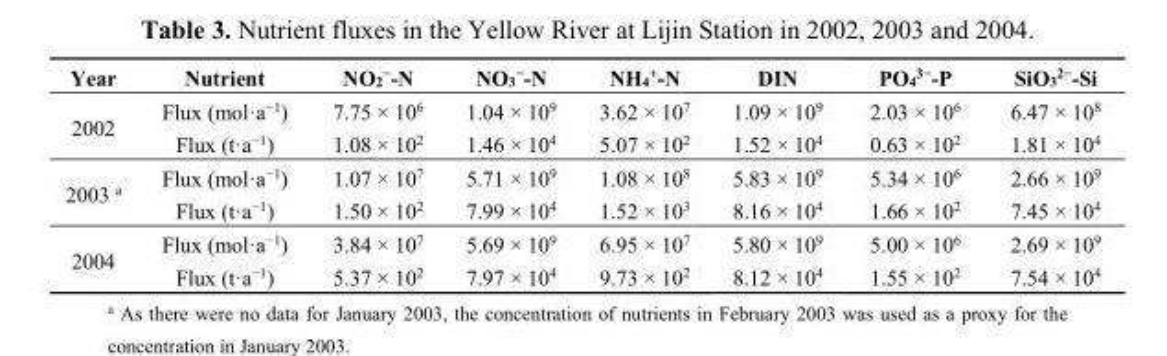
<table><thead><tr><td>Year</td><td>Nutrient</td><td>NO<sub>2</sub><sup>−</sup>-N</td><td>NO<sub>3</sub><sup>−</sup>-N</td><td>NH<sub>4</sub><sup>+</sup>-N</td><td>DIN</td><td>PO<sub>4</sub><sup>3−</sup>-P</td><td>SiO<sub>3</sub><sup>2−</sup>-Si</td></tr></thead><tbody><tr><td rowspan="2">2002</td><td>Flux (mol·a<sup>−1</sup>)</td><td>7.75 × 10<sup>6</sup></td><td>1.04 × 10<sup>9</sup></td><td>3.62 × 10<sup>7</sup></td><td>1.09 × 10<sup>9</sup></td><td>2.03 × 10<sup>6</sup></td><td>6.47 × 10<sup>8</sup></td></tr><tr><td>Flux (t·a<sup>−1</sup>)</td><td>1.08 × 10<sup>2</sup></td><td>1.46 × 10<sup>4</sup></td><td>5.07 × 10<sup>2</sup></td><td>1.52 × 10<sup>4</sup></td><td>0.63 × 10<sup>2</sup></td><td>1.81 × 10<sup>4</sup></td></tr><tr><td rowspan="2">2003 <sup>a</sup></td><td>Flux (mol·a<sup>−1</sup>)</td><td>1.07 × 10<sup>7</sup></td><td>5.71 × 10<sup>9</sup></td><td>1.08 × 10<sup>8</sup></td><td>5.83 × 10<sup>9</sup></td><td>5.34 × 10<sup>6</sup></td><td>2.66 × 10<sup>9</sup></td></tr><tr><td>Flux (t·a<sup>−1</sup>)</td><td>1.50 × 10<sup>2</sup></td><td>7.99 × 10<sup>4</sup></td><td>1.52 × 10<sup>3</sup></td><td>8.16 × 10<sup>4</sup></td><td>1.66 × 10<sup>2</sup></td><td>7.45 × 10<sup>4</sup></td></tr><tr><td rowspan="2">2004</td><td>Flux (mol·a<sup>−1</sup>)</td><td>3.84 × 10<sup>7</sup></td><td>5.69 × 10<sup>9</sup></td><td>6.95 × 10<sup>7</sup></td><td>5.80 × 10<sup>9</sup></td><td>5.00 × 10<sup>6</sup></td><td>2.69 × 10<sup>9</sup></td></tr><tr><td>Flux (t·a<sup>−1</sup>)</td><td>5.37 × 10<sup>2</sup></td><td>7.97 × 10<sup>4</sup></td><td>9.73 × 10<sup>2</sup></td><td>8.12 × 10<sup>4</sup></td><td>1.55 × 10<sup>2</sup></td><td>7.54 × 10<sup>4</sup></td></tr></tbody></table>